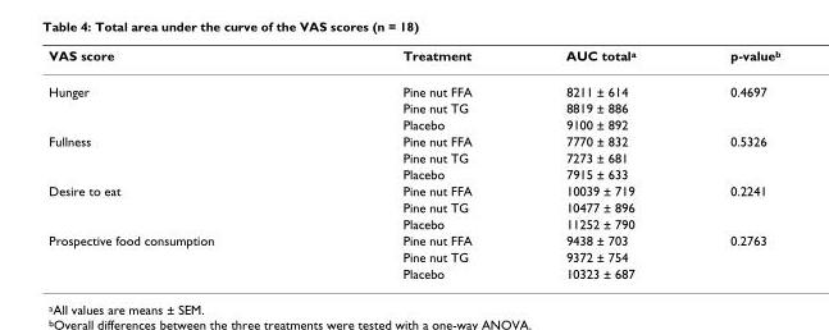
<table><thead><tr><td>VAS score</td><td>Treatment</td><td>AUC total<sup>a</sup></td><td>p-value<sup>b</sup></td></tr></thead><tbody><tr><td rowspan="3">Hunger</td><td>Pine nut FFA</td><td>8211 ± 614</td><td>0.4697</td></tr><tr><td>Pine nut TG</td><td>8819 ± 886</td><td></td></tr><tr><td>Placebo</td><td>9100 ± 892</td><td></td></tr><tr><td rowspan="3">Fullness</td><td>Pine nut FFA</td><td>7770 ± 832</td><td>0.5326</td></tr><tr><td>Pine nut TG</td><td>7273 ± 681</td><td></td></tr><tr><td>Placebo</td><td>7915 ± 633</td><td></td></tr><tr><td rowspan="3">Desire to eat</td><td>Pine nut FFA</td><td>10039 ± 719</td><td>0.2241</td></tr><tr><td>Pine nut TG</td><td>10477 ± 896</td><td></td></tr><tr><td>Placebo</td><td>11252 ± 790</td><td></td></tr><tr><td rowspan="3">Prospective food consumption</td><td>Pine nut FFA</td><td>9438 ± 703</td><td>0.2763</td></tr><tr><td>Pine nut TG</td><td>9372 ± 754</td><td></td></tr><tr><td>Placebo</td><td>10323 ± 687</td><td></td></tr></tbody></table>